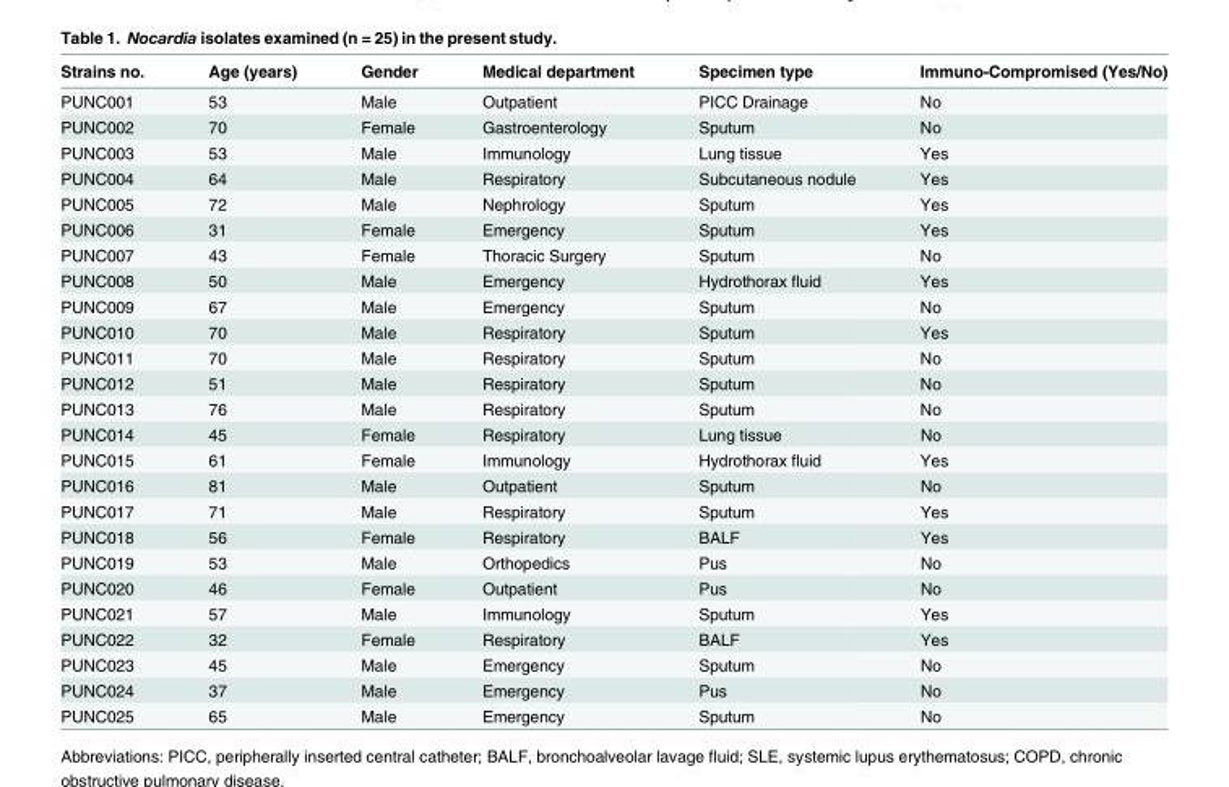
<table><thead><tr><td>Strains no.</td><td>Age (years)</td><td>Gender</td><td>Medical department</td><td>Specimen type</td><td>Immuno-Compromised (Yes/No)</td></tr></thead><tbody><tr><td>PUNC001</td><td>53</td><td>Male</td><td>Outpatient</td><td>PICC Drainage</td><td>No</td></tr><tr><td>PUNC002</td><td>70</td><td>Female</td><td>Gastroenterology</td><td>Sputum</td><td>No</td></tr><tr><td>PUNC003</td><td>53</td><td>Male</td><td>Immunology</td><td>Lung tissue</td><td>Yes</td></tr><tr><td>PUNC004</td><td>64</td><td>Male</td><td>Respiratory</td><td>Subcutaneous nodule</td><td>Yes</td></tr><tr><td>PUNC005</td><td>72</td><td>Male</td><td>Nephrology</td><td>Sputum</td><td>Yes</td></tr><tr><td>PUNC006</td><td>31</td><td>Female</td><td>Emergency</td><td>Sputum</td><td>Yes</td></tr><tr><td>PUNC007</td><td>43</td><td>Female</td><td>Thoracic Surgery</td><td>Sputum</td><td>No</td></tr><tr><td>PUNC008</td><td>50</td><td>Male</td><td>Emergency</td><td>Hydrothorax fluid</td><td>Yes</td></tr><tr><td>PUNC009</td><td>67</td><td>Male</td><td>Emergency</td><td>Sputum</td><td>No</td></tr><tr><td>PUNC010</td><td>70</td><td>Male</td><td>Respiratory</td><td>Sputum</td><td>Yes</td></tr><tr><td>PUNC011</td><td>70</td><td>Male</td><td>Respiratory</td><td>Sputum</td><td>No</td></tr><tr><td>PUNC012</td><td>51</td><td>Male</td><td>Respiratory</td><td>Sputum</td><td>No</td></tr><tr><td>PUNC013</td><td>76</td><td>Male</td><td>Respiratory</td><td>Sputum</td><td>No</td></tr><tr><td>PUNC014</td><td>45</td><td>Female</td><td>Respiratory</td><td>Lung tissue</td><td>No</td></tr><tr><td>PUNC015</td><td>61</td><td>Female</td><td>Immunology</td><td>Hydrothorax fluid</td><td>Yes</td></tr><tr><td>PUNC016</td><td>81</td><td>Male</td><td>Outpatient</td><td>Sputum</td><td>No</td></tr><tr><td>PUNC017</td><td>71</td><td>Male</td><td>Respiratory</td><td>Sputum</td><td>Yes</td></tr><tr><td>PUNC018</td><td>56</td><td>Female</td><td>Respiratory</td><td>BALF</td><td>Yes</td></tr><tr><td>PUNC019</td><td>53</td><td>Male</td><td>Orthopedics</td><td>Pus</td><td>No</td></tr><tr><td>PUNC020</td><td>46</td><td>Female</td><td>Outpatient</td><td>Pus</td><td>No</td></tr><tr><td>PUNC021</td><td>57</td><td>Male</td><td>Immunology</td><td>Sputum</td><td>Yes</td></tr><tr><td>PUNC022</td><td>32</td><td>Female</td><td>Respiratory</td><td>BALF</td><td>Yes</td></tr><tr><td>PUNC023</td><td>45</td><td>Male</td><td>Emergency</td><td>Sputum</td><td>No</td></tr><tr><td>PUNC024</td><td>37</td><td>Male</td><td>Emergency</td><td>Pus</td><td>No</td></tr><tr><td>PUNC025</td><td>65</td><td>Male</td><td>Emergency</td><td>Sputum</td><td>No</td></tr></tbody></table>